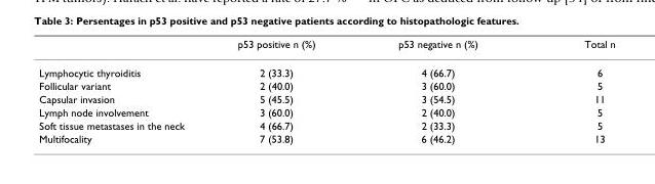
<table><thead><tr><td></td><td>p53 positive n (%)</td><td>p53 negative n (%)</td><td>Total n</td></tr></thead><tbody><tr><td>Lymphocytic thyroiditis</td><td>2 (33.3)</td><td>4 (66.7)</td><td>6</td></tr><tr><td>Follicular variant</td><td>2 (40.0)</td><td>3 (60.0)</td><td>5</td></tr><tr><td>Capsular invasion</td><td>5 (45.5)</td><td>3 (54.5)</td><td>11</td></tr><tr><td>Lymph node involvement</td><td>3 (60.0)</td><td>2 (40.0)</td><td>5</td></tr><tr><td>Soft tissue metastases in the neck</td><td>4 (66.7)</td><td>2 (33.3)</td><td>5</td></tr><tr><td>Multifocality</td><td>7 (53.8)</td><td>6 (46.2)</td><td>13</td></tr></tbody></table>